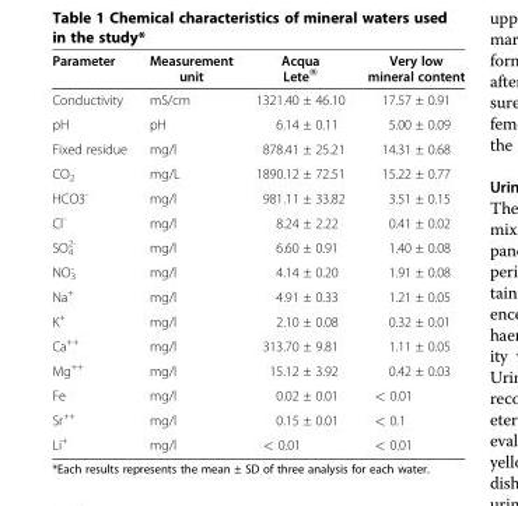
<table><thead><tr><td>Parameter</td><td>Measurement unit</td><td>Acqua Lete®</td><td>Very low mineral content</td></tr></thead><tbody><tr><td>Conductivity</td><td>mS/cm</td><td>1321.40 ± 46.10</td><td>17.57 ± 0.91</td></tr><tr><td>pH</td><td>pH</td><td>6.14 ± 0.11</td><td>5.00 ± 0.09</td></tr><tr><td>Fixed residue</td><td>mg/l</td><td>878.41 ± 25.21</td><td>14.31 ± 0.68</td></tr><tr><td>CO<sub>2</sub></td><td>mg/L</td><td>1890.12 ± 72.51</td><td>15.22 ± 0.77</td></tr><tr><td>HCO3<sup>-</sup></td><td>mg/l</td><td>981.11 ± 33.82</td><td>3.51 ± 0.15</td></tr><tr><td>Cl<sup>-</sup></td><td>mg/l</td><td>8.24 ± 2.22</td><td>0.41 ± 0.02</td></tr><tr><td>SO<sub>4</sub> <sup>2-</sup></td><td>mg/l</td><td>6.60 ± 0.91</td><td>1.40 ± 0.08</td></tr><tr><td>NO<sub>3</sub> <sup>-</sup></td><td>mg/l</td><td>4.14 ± 0.20</td><td>1.91 ± 0.08</td></tr><tr><td>Na<sup>+</sup></td><td>mg/l</td><td>4.91 ± 0.33</td><td>1.21 ± 0.05</td></tr><tr><td>K<sup>+</sup></td><td>mg/l</td><td>2.10 ± 0.08</td><td>0.32 ± 0.01</td></tr><tr><td>Ca<sup>++</sup></td><td>mg/l</td><td>313.70 ± 9.81</td><td>1.11 ± 0.05</td></tr><tr><td>Mg<sup>++</sup></td><td>mg/l</td><td>15.12 ± 3.92</td><td>0.42 ± 0.03</td></tr><tr><td>Fe</td><td>mg/l</td><td>0.02 ± 0.01</td><td>&lt; 0.01</td></tr><tr><td>Sr<sup>++</sup></td><td>mg/l</td><td>0.15 ± 0.01</td><td>&lt; 0.1</td></tr><tr><td>Li<sup>+</sup></td><td>mg/l</td><td>&lt; 0.01</td><td>&lt; 0.01</td></tr></tbody></table>